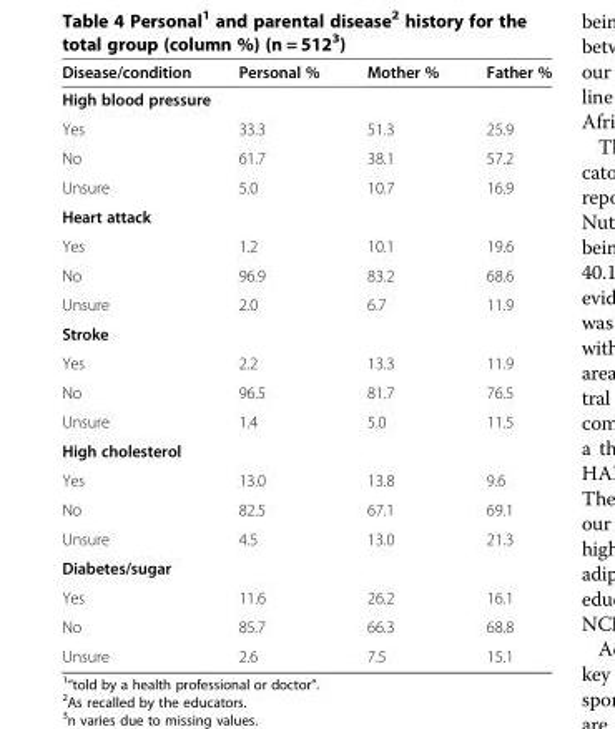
<table><thead><tr><td>Disease/condition</td><td>Personal %</td><td>Mother %</td><td>Father %</td></tr></thead><tbody><tr><td colspan="4">High blood pressure</td></tr><tr><td>Yes</td><td>33.3</td><td>51.3</td><td>25.9</td></tr><tr><td>No</td><td>61.7</td><td>38.1</td><td>57.2</td></tr><tr><td>Unsure</td><td>5.0</td><td>10.7</td><td>16.9</td></tr><tr><td colspan="4">Heart attack</td></tr><tr><td>Yes</td><td>1.2</td><td>10.1</td><td>19.6</td></tr><tr><td>No</td><td>96.9</td><td>83.2</td><td>68.6</td></tr><tr><td>Unsure</td><td>2.0</td><td>6.7</td><td>11.9</td></tr><tr><td colspan="4">Stroke</td></tr><tr><td>Yes</td><td>2.2</td><td>13.3</td><td>11.9</td></tr><tr><td>No</td><td>96.5</td><td>81.7</td><td>76.5</td></tr><tr><td>Unsure</td><td>1.4</td><td>5.0</td><td>11.5</td></tr><tr><td colspan="4">High cholesterol</td></tr><tr><td>Yes</td><td>13.0</td><td>13.8</td><td>9.6</td></tr><tr><td>No</td><td>82.5</td><td>67.1</td><td>69.1</td></tr><tr><td>Unsure</td><td>4.5</td><td>13.0</td><td>21.3</td></tr><tr><td colspan="4">Diabetes/sugar</td></tr><tr><td>Yes</td><td>11.6</td><td>26.2</td><td>16.1</td></tr><tr><td>No</td><td>85.7</td><td>66.3</td><td>68.8</td></tr><tr><td>Unsure</td><td>2.6</td><td>7.5</td><td>15.1</td></tr></tbody></table>